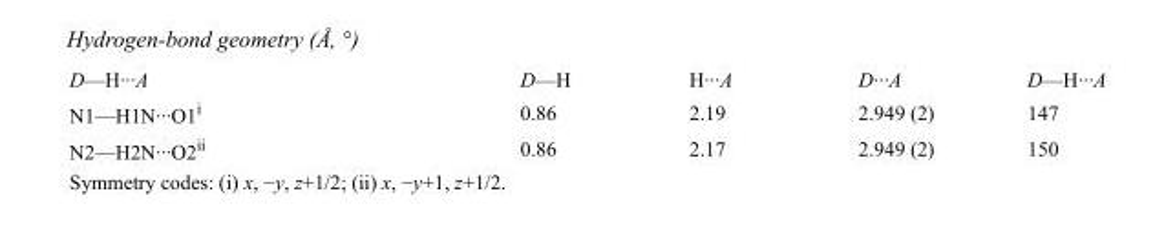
<table><tbody><tr><td>D—H···A</td><td>D—H</td><td>H···A</td><td>D···A</td><td>D—H···A</td></tr><tr><td>N1—H1N···O1<sup>i</sup></td><td>0.86</td><td>2.19</td><td>2.949 (2)</td><td>147</td></tr><tr><td>N2—H2N···O2<sup>ii</sup></td><td>0.86</td><td>2.17</td><td>2.949 (2)</td><td>150</td></tr></tbody></table>